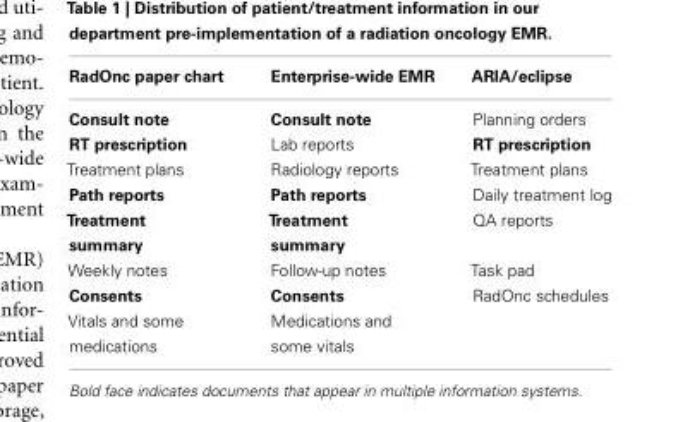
<table><thead><tr><td>RadOnc paper chart</td><td>Enterprise-wide EMR</td><td>ARIA/eclipse</td></tr></thead><tbody><tr><td>Consult note</td><td>Consult note</td><td>Planning orders</td></tr><tr><td>RT prescription</td><td>Lab reports</td><td>RT prescription</td></tr><tr><td>Treatment plans</td><td>Radiology reports</td><td>Treatment plans</td></tr><tr><td>Path reports</td><td>Path reports</td><td>Daily treatment log</td></tr><tr><td>Treatment summary</td><td>Treatment summary</td><td>QA reports</td></tr><tr><td>Weekly notes</td><td>Follow-up notes</td><td>Task pad</td></tr><tr><td>Consents</td><td>Consents</td><td>RadOnc schedules</td></tr><tr><td>Vitals and some medications</td><td>Medications and some vitals</td><td></td></tr></tbody></table>